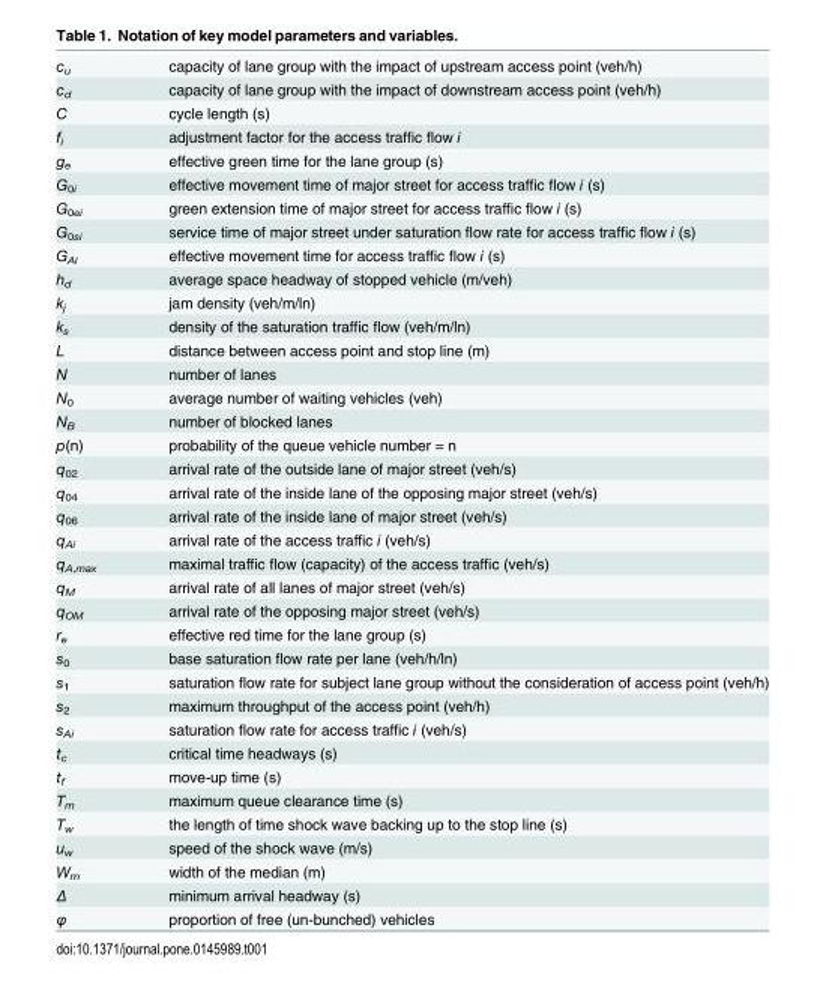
<table><tbody><tr><td>c<sub>u</sub></td><td>capacity of lane group with the impact of upstream access point (veh/h)</td></tr><tr><td>c<sub>d</sub></td><td>capacity of lane group with the impact of downstream access point (veh/h)</td></tr><tr><td>C</td><td>cycle length (s)</td></tr><tr><td>f<sub>i</sub></td><td>adjustment factor for the access traffic flow i</td></tr><tr><td>g<sub>e</sub></td><td>effective green time for the lane group (s)</td></tr><tr><td>G<sub>0i</sub></td><td>effective movement time of major street for access traffic flow i (s)</td></tr><tr><td>G<sub>0ei</sub></td><td>green extension time of major street for access traffic flow i (s)</td></tr><tr><td>G<sub>0si</sub></td><td>service time of major street under saturation flow rate for access traffic flow i (s)</td></tr><tr><td>G<sub>Ai</sub></td><td>effective movement time for access traffic flow i (s)</td></tr><tr><td>h<sub>d</sub></td><td>average space headway of stopped vehicle (m/veh)</td></tr><tr><td>k<sub>j</sub></td><td>jam density (veh/m/ln)</td></tr><tr><td>k<sub>s</sub></td><td>density of the saturation traffic flow (veh/m/ln)</td></tr><tr><td>L</td><td>distance between access point and stop line (m)</td></tr><tr><td>N</td><td>number of lanes</td></tr><tr><td>N<sub>0</sub></td><td>average number of waiting vehicles (veh)</td></tr><tr><td>N<sub>B</sub></td><td>number of blocked lanes</td></tr><tr><td>p(n)</td><td>probability of the queue vehicle number = n</td></tr><tr><td>q<sub>02</sub></td><td>arrival rate of the outside lane of major street (veh/s)</td></tr><tr><td>q<sub>04</sub></td><td>arrival rate of the inside lane of the opposing major street (veh/s)</td></tr><tr><td>q<sub>06</sub></td><td>arrival rate of the inside lane of major street (veh/s)</td></tr><tr><td>q<sub>Ai</sub></td><td>arrival rate of the access traffic i (veh/s)</td></tr><tr><td>q<sub>A,max</sub></td><td>maximal traffic flow (capacity) of the access traffic (veh/s)</td></tr><tr><td>q<sub>M</sub></td><td>arrival rate of all lanes of major street (veh/s)</td></tr><tr><td>q<sub>OM</sub></td><td>arrival rate of the opposing major street (veh/s)</td></tr><tr><td>r<sub>e</sub></td><td>effective red time for the lane group (s)</td></tr><tr><td>s<sub>0</sub></td><td>base saturation flow rate per lane (veh/h/ln)</td></tr><tr><td>s<sub>1</sub></td><td>saturation flow rate for subject lane group without the consideration of access point (veh/h)</td></tr><tr><td>s<sub>2</sub></td><td>maximum throughput of the access point (veh/h)</td></tr><tr><td>s<sub>Ai</sub></td><td>saturation flow rate for access traffic i (veh/s)</td></tr><tr><td>t<sub>c</sub></td><td>critical time headways (s)</td></tr><tr><td>t<sub>f</sub></td><td>move-up time (s)</td></tr><tr><td>T<sub>m</sub></td><td>maximum queue clearance time (s)</td></tr><tr><td>T<sub>w</sub></td><td>the length of time shock wave backing up to the stop line (s)</td></tr><tr><td>u<sub>w</sub></td><td>speed of the shock wave (m/s)</td></tr><tr><td>W<sub>m</sub></td><td>width of the median (m)</td></tr><tr><td>Δ</td><td>minimum arrival headway (s)</td></tr><tr><td>φ</td><td>proportion of free (un-bunched) vehicles</td></tr></tbody></table>